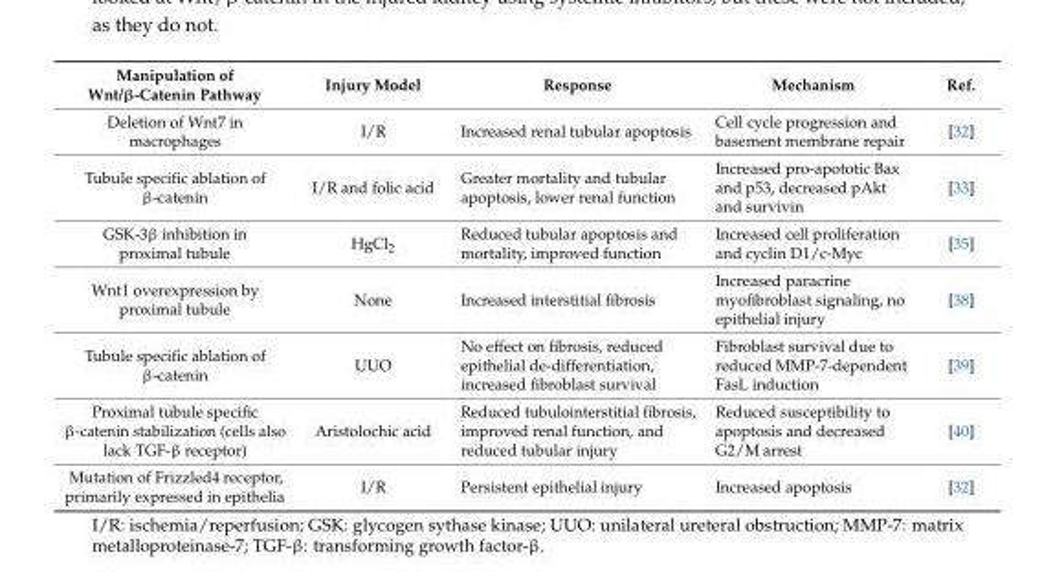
<table><thead><tr><td>Manipulation of Wnt/β-Catenin Pathway</td><td>Injury Model</td><td>Response</td><td>Mechanism</td><td>Ref.</td></tr></thead><tbody><tr><td>Deletion of Wnt7 in macrophages</td><td>I/R</td><td>Increased renal tubular apoptosis</td><td>Cell cycle progression and basement membrane repair</td><td>[32]</td></tr><tr><td>Tubule specific ablation of β-catenin</td><td>I/R and folic acid</td><td>Greater mortality and tubular apoptosis, lower renal function</td><td>Increased pro-apototic Bax and p53, decreased pAkt and survivin</td><td>[33]</td></tr><tr><td>GSK-3β inhibition in proximal tubule</td><td>HgCl<sub>2</sub></td><td>Reduced tubular apoptosis and mortality, improved function</td><td>Increased cell proliferation and cyclin D1/c-Myc</td><td>[35]</td></tr><tr><td>Wnt1 overexpression by proximal tubule</td><td>None</td><td>Increased interstitial fibrosis</td><td>Increased paracrine myofibroblast signaling, no epithelial injury</td><td>[38]</td></tr><tr><td>Tubule specific ablation of β-catenin</td><td>UUO</td><td>No effect on fibrosis, reduced epithelial de-differentiation, increased fibroblast survival</td><td>Fibroblast survival due to reduced MMP-7-dependent FasL induction</td><td>[39]</td></tr><tr><td>Proximal tubule specific β-catenin stabilization (cells also lack TGF-β receptor)</td><td>Aristolochic acid</td><td>Reduced tubulointerstitial fibrosis, improved renal function, and reduced tubular injury</td><td>Reduced susceptibility to apoptosis and decreased G2/M arrest</td><td>[40]</td></tr><tr><td>Mutation of Frizzled4 receptor, primarily expressed in epithelia</td><td>I/R</td><td>Persistent epithelial injury</td><td>Increased apoptosis</td><td>[32]</td></tr></tbody></table>